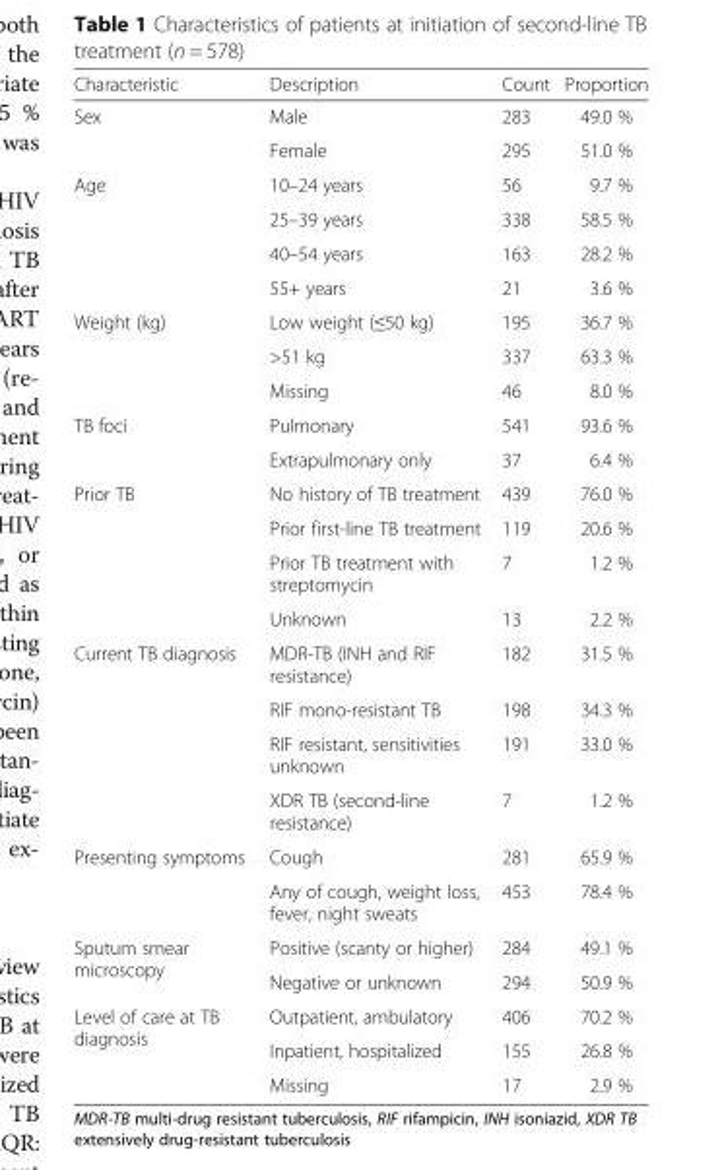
<table><thead><tr><td>Characteristic</td><td>Description</td><td>Count</td><td>Proportion</td></tr></thead><tbody><tr><td rowspan="2">Sex</td><td>Male</td><td>283</td><td>49.0 %</td></tr><tr><td>Female</td><td>295</td><td>51.0 %</td></tr><tr><td rowspan="4">Age</td><td>10–24 years</td><td>56</td><td>9.7 %</td></tr><tr><td>25–39 years</td><td>338</td><td>58.5 %</td></tr><tr><td>40–54 years</td><td>163</td><td>28.2 %</td></tr><tr><td>55+ years</td><td>21</td><td>3.6 %</td></tr><tr><td rowspan="3">Weight (kg)</td><td>Low weight (≤50 kg)</td><td>195</td><td>36.7 %</td></tr><tr><td>&gt;51 kg</td><td>337</td><td>63.3 %</td></tr><tr><td>Missing</td><td>46</td><td>8.0 %</td></tr><tr><td rowspan="2">TB foci</td><td>Pulmonary</td><td>541</td><td>93.6 %</td></tr><tr><td>Extrapulmonary only</td><td>37</td><td>6.4 %</td></tr><tr><td rowspan="4">Prior TB</td><td>No history of TB treatment</td><td>439</td><td>76.0 %</td></tr><tr><td>Prior first-line TB treatment</td><td>119</td><td>20.6 %</td></tr><tr><td>Prior TB treatment with streptomycin</td><td>7</td><td>1.2 %</td></tr><tr><td>Unknown</td><td>13</td><td>2.2 %</td></tr><tr><td rowspan="4">Current TB diagnosis</td><td>MDR-TB (INH and RIF resistance)</td><td>182</td><td>31.5 %</td></tr><tr><td>RIF mono-resistant TB</td><td>198</td><td>34.3 %</td></tr><tr><td>RIF resistant, sensitivities unknown</td><td>191</td><td>33.0 %</td></tr><tr><td>XDR TB (second-line resistance)</td><td>7</td><td>1.2 %</td></tr><tr><td rowspan="2">Presenting symptoms</td><td>Cough</td><td>281</td><td>65.9 %</td></tr><tr><td>Any of cough, weight loss, fever, night sweats</td><td>453</td><td>78.4 %</td></tr><tr><td rowspan="2">Sputum smear microscopy</td><td>Positive (scanty or higher)</td><td>284</td><td>49.1 %</td></tr><tr><td>Negative or unknown</td><td>294</td><td>50.9 %</td></tr><tr><td rowspan="3">Level of care at TB diagnosis</td><td>Outpatient, ambulatory</td><td>406</td><td>70.2 %</td></tr><tr><td>Inpatient, hospitalized</td><td>155</td><td>26.8 %</td></tr><tr><td>Missing</td><td>17</td><td>2.9 %</td></tr></tbody></table>